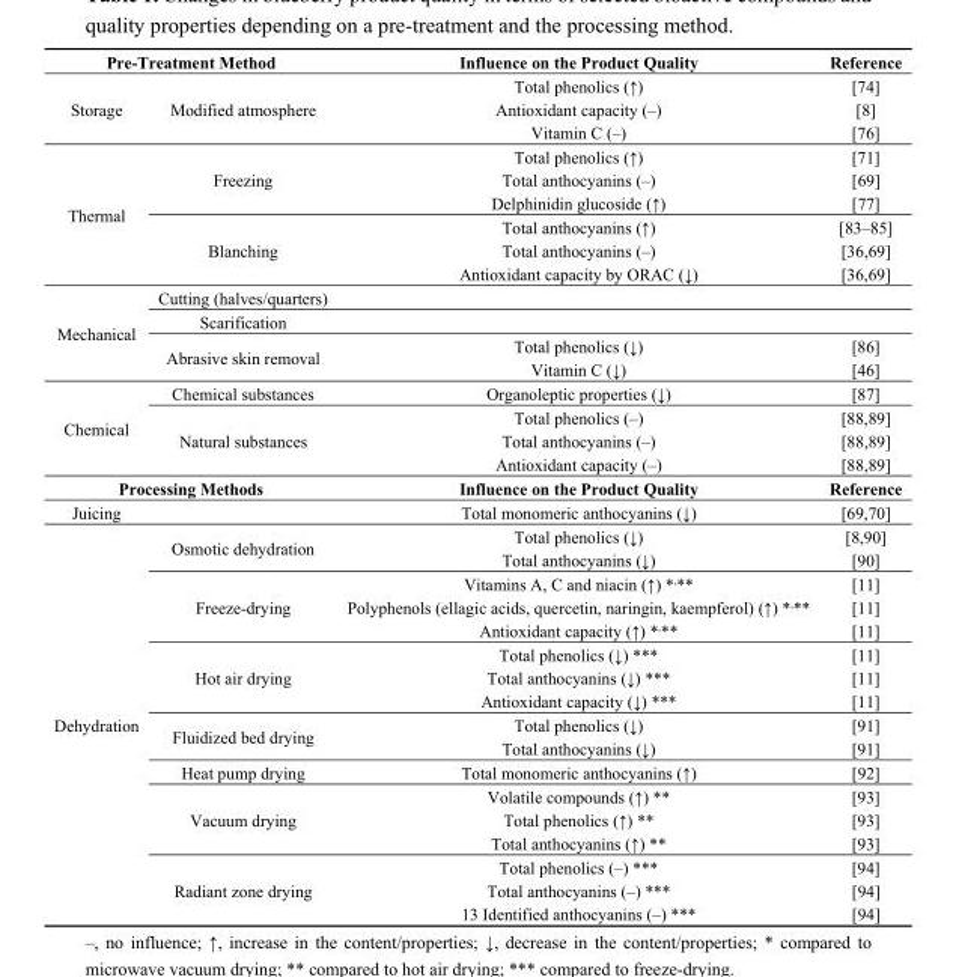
<table><tbody><tr><td colspan="2">Pre-Treatment Method</td><td>Influence on the Product Quality</td><td>Reference</td></tr><tr><td rowspan="3">Storage</td><td rowspan="3">Modified atmosphere</td><td>Total phenolics (↑)</td><td>[74]</td></tr><tr><td>Antioxidant capacity (–)</td><td>[8]</td></tr><tr><td>Vitamin C (–)</td><td>[76]</td></tr><tr><td rowspan="6">Thermal</td><td rowspan="3">Freezing</td><td>Total phenolics (↑)</td><td>[71]</td></tr><tr><td>Total anthocyanins (–)</td><td>[69]</td></tr><tr><td>Delphinidin glucoside (↑)</td><td>[77]</td></tr><tr><td rowspan="3">Blanching</td><td>Total anthocyanins (↑)</td><td>[83–85]</td></tr><tr><td>Total anthocyanins (–)</td><td>[36,69]</td></tr><tr><td>Antioxidant capacity by ORAC (↓)</td><td>[36,69]</td></tr><tr><td rowspan="4">Mechanical</td><td>Cutting (halves/quarters)</td><td></td><td></td></tr><tr><td>Scarification</td><td></td><td></td></tr><tr><td rowspan="2">Abrasive skin removal</td><td>Total phenolics (↓)</td><td>[86]</td></tr><tr><td>Vitamin C (↓)</td><td>[46]</td></tr><tr><td rowspan="4">Chemical</td><td>Chemical substances</td><td>Organoleptic properties (↓)</td><td>[87]</td></tr><tr><td rowspan="3">Natural substances</td><td>Total phenolics (–)</td><td>[88,89]</td></tr><tr><td>Total anthocyanins (–)</td><td>[88,89]</td></tr><tr><td>Antioxidant capacity (–)</td><td>[88,89]</td></tr><tr><td colspan="2">Processing Methods</td><td>Influence on the Product Quality</td><td>Reference</td></tr><tr><td>Juicing</td><td></td><td>Total monomeric anthocyanins (↓)</td><td>[69,70]</td></tr><tr><td rowspan="17">Dehydration</td><td rowspan="2">Osmotic dehydration</td><td>Total phenolics (↓)</td><td>[8,90]</td></tr><tr><td>Total anthocyanins (↓)</td><td>[90]</td></tr><tr><td rowspan="3">Freeze-drying</td><td>Vitamins A, C and niacin (↑) *<sup>,</sup>**</td><td>[11]</td></tr><tr><td>Polyphenols (ellagic acids, quercetin, naringin, kaempferol) (↑) *<sup>,</sup>**</td><td>[11]</td></tr><tr><td>Antioxidant capacity (↑) *<sup>,</sup>**</td><td>[11]</td></tr><tr><td rowspan="3">Hot air drying</td><td>Total phenolics (↓) ***</td><td>[11]</td></tr><tr><td>Total anthocyanins (↓) ***</td><td>[11]</td></tr><tr><td>Antioxidant capacity (↓) ***</td><td>[11]</td></tr><tr><td rowspan="2">Fluidized bed drying</td><td>Total phenolics (↓)</td><td>[91]</td></tr><tr><td>Total anthocyanins (↓)</td><td>[91]</td></tr><tr><td>Heat pump drying</td><td>Total monomeric anthocyanins (↑)</td><td>[92]</td></tr><tr><td rowspan="3">Vacuum drying</td><td>Volatile compounds (↑) **</td><td>[93]</td></tr><tr><td>Total phenolics (↑) **</td><td>[93]</td></tr><tr><td>Total anthocyanins (↑) **</td><td>[93]</td></tr><tr><td rowspan="3">Radiant zone drying</td><td>Total phenolics (–) ***</td><td>[94]</td></tr><tr><td>Total anthocyanins (–) ***</td><td>[94]</td></tr><tr><td>13 Identified anthocyanins (–) ***</td><td>[94]</td></tr></tbody></table>